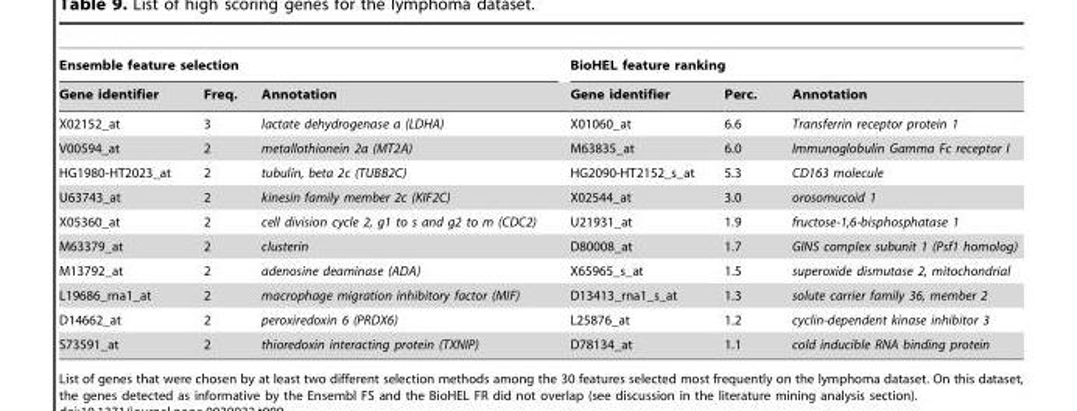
<table><thead><tr><td colspan="3">Ensemble feature selection</td><td colspan="3">BioHEL feature ranking</td></tr><tr><td>Gene identifier</td><td>Freq.</td><td>Annotation</td><td>Gene identifier</td><td>Perc.</td><td>Annotation</td></tr></thead><tbody><tr><td>X02152_at</td><td>3</td><td>lactate dehydrogenase a (LDHA)</td><td>X01060_at</td><td>6.6</td><td>Transferrin receptor protein 1</td></tr><tr><td>V00594_at</td><td>2</td><td>metallothionein 2a (MT2A)</td><td>M63835_at</td><td>6.0</td><td>Immunoglobulin Gamma Fc receptor I</td></tr><tr><td>HG1980-HT2023_at</td><td>2</td><td>tubulin, beta 2c (TUBB2C)</td><td>HG2090-HT2152_s_at</td><td>5.3</td><td>CD163 molecule</td></tr><tr><td>U63743_at</td><td>2</td><td>kinesin family member 2c (KIF2C)</td><td>X02544_at</td><td>3.0</td><td>orosomucoid 1</td></tr><tr><td>X05360_at</td><td>2</td><td>cell division cycle 2, g1 to s and g2 to m (CDC2)</td><td>U21931_at</td><td>1.9</td><td>fructose-1,6-bisphosphatase 1</td></tr><tr><td>M63379_at</td><td>2</td><td>clusterin</td><td>D80008_at</td><td>1.7</td><td>GINS complex subunit 1 (Psf1 homolog)</td></tr><tr><td>M13792_at</td><td>2</td><td>adenosine deaminase (ADA)</td><td>X65965_s_at</td><td>1.5</td><td>superoxide dismutase 2, mitochondrial</td></tr><tr><td>L19686_rna1_at</td><td>2</td><td>macrophage migration inhibitory factor (MIF)</td><td>D13413_rna1_s_at</td><td>1.3</td><td>solute carrier family 36, member 2</td></tr><tr><td>D14662_at</td><td>2</td><td>peroxiredoxin 6 (PRDX6)</td><td>L25876_at</td><td>1.2</td><td>cyclin-dependent kinase inhibitor 3</td></tr><tr><td>S73591_at</td><td>2</td><td>thioredoxin interacting protein (TXNIP)</td><td>D78134_at</td><td>1.1</td><td>cold inducible RNA binding protein</td></tr></tbody></table>